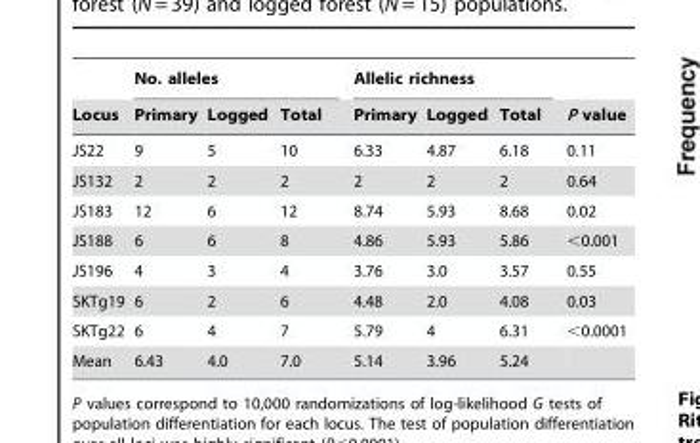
<table><thead><tr><td rowspan="2">Locus</td><td colspan="3">No. alleles</td><td colspan="3">Allelic richness</td><td rowspan="2">P value</td></tr><tr><td>Primary</td><td>Logged</td><td>Total</td><td>Primary</td><td>Logged</td><td>Total</td></tr></thead><tbody><tr><td>JS22</td><td>9</td><td>5</td><td>10</td><td>6.33</td><td>4.87</td><td>6.18</td><td>0.11</td></tr><tr><td>JS132</td><td>2</td><td>2</td><td>2</td><td>2</td><td>2</td><td>2</td><td>0.64</td></tr><tr><td>JS183</td><td>12</td><td>6</td><td>12</td><td>8.74</td><td>5.93</td><td>8.68</td><td>0.02</td></tr><tr><td>JS188</td><td>6</td><td>6</td><td>8</td><td>4.86</td><td>5.93</td><td>5.86</td><td>&lt;0.001</td></tr><tr><td>JS196</td><td>4</td><td>3</td><td>4</td><td>3.76</td><td>3.0</td><td>3.57</td><td>0.55</td></tr><tr><td>SKTg19</td><td>6</td><td>2</td><td>6</td><td>4.48</td><td>2.0</td><td>4.08</td><td>0.03</td></tr><tr><td>SKTg22</td><td>6</td><td>4</td><td>7</td><td>5.79</td><td>4</td><td>6.31</td><td>&lt;0.0001</td></tr><tr><td>Mean</td><td>6.43</td><td>4.0</td><td>7.0</td><td>5.14</td><td>3.96</td><td>5.24</td><td></td></tr></tbody></table>